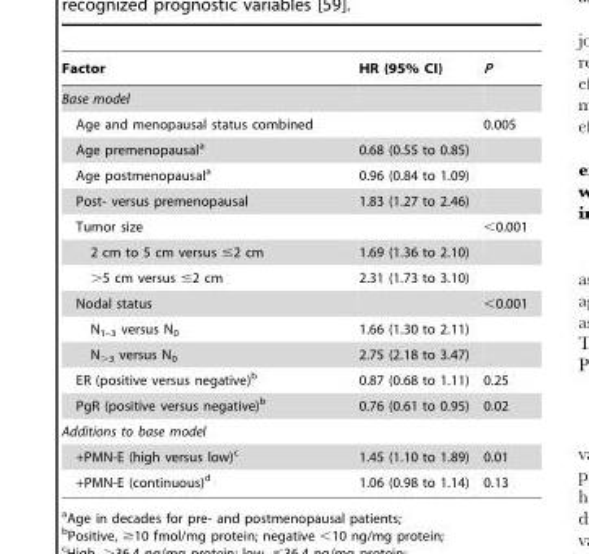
<table><thead><tr><td>Factor</td><td>HR (95% CI)</td><td>P</td></tr></thead><tbody><tr><td colspan="3">Base model</td></tr><tr><td>Age and menopausal status combined</td><td></td><td>0.005</td></tr><tr><td>Age premenopausal<sup>a</sup></td><td>0.68 (0.55 to 0.85)</td><td></td></tr><tr><td>Age postmenopausal<sup>a</sup></td><td>0.96 (0.84 to 1.09)</td><td></td></tr><tr><td>Post- versus premenopausal</td><td>1.83 (1.27 to 2.46)</td><td></td></tr><tr><td>Tumor size</td><td></td><td>&lt;0.001</td></tr><tr><td>2 cm to 5 cm versus ≤2 cm</td><td>1.69 (1.36 to 2.10)</td><td></td></tr><tr><td>&gt;5 cm versus ≤2 cm</td><td>2.31 (1.73 to 3.10)</td><td></td></tr><tr><td>Nodal status</td><td></td><td>&lt;0.001</td></tr><tr><td>N<sub>1–3</sub> versus N<sub>0</sub></td><td>1.66 (1.30 to 2.11)</td><td></td></tr><tr><td>N<sub>&gt;3</sub> versus N<sub>0</sub></td><td>2.75 (2.18 to 3.47)</td><td></td></tr><tr><td>ER (positive versus negative)<sup>b</sup></td><td>0.87 (0.68 to 1.11)</td><td>0.25</td></tr><tr><td>PgR (positive versus negative)<sup>b</sup></td><td>0.76 (0.61 to 0.95)</td><td>0.02</td></tr><tr><td colspan="3">Additions to base model</td></tr><tr><td>+PMN-E (high versus low)<sup>c</sup></td><td>1.45 (1.10 to 1.89)</td><td>0.01</td></tr><tr><td>+PMN-E (continuous)<sup>d</sup></td><td>1.06 (0.98 to 1.14)</td><td>0.13</td></tr></tbody></table>